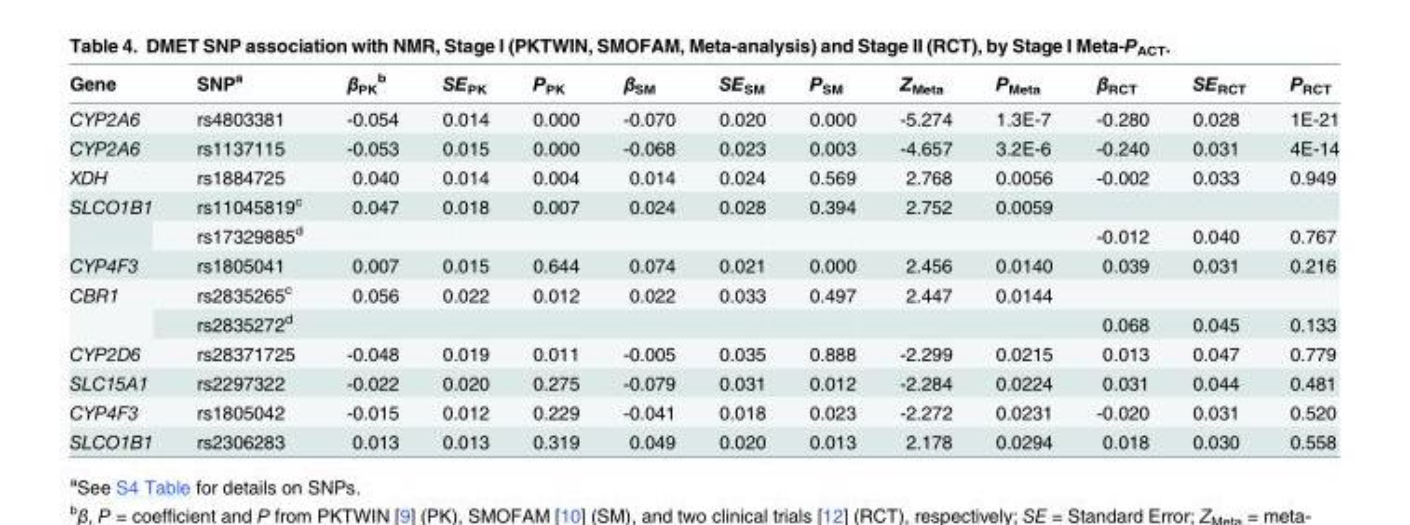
<table><thead><tr><td>Gene</td><td>SNP<sup>a</sup></td><td>β<sub>PK</sub> <sup>b</sup></td><td>SE<sub>PK</sub></td><td>P<sub>PK</sub></td><td>β<sub>SM</sub></td><td>SE<sub>SM</sub></td><td>P<sub>SM</sub></td><td>Z<sub>Meta</sub></td><td>P<sub>Meta</sub></td><td>β<sub>RCT</sub></td><td>SE<sub>RCT</sub></td><td>P<sub>RCT</sub></td></tr></thead><tbody><tr><td>CYP2A6</td><td>rs4803381</td><td>-0.054</td><td>0.014</td><td>0.000</td><td>-0.070</td><td>0.020</td><td>0.000</td><td>-5.274</td><td>1.3E-7</td><td>-0.280</td><td>0.028</td><td>1E-21</td></tr><tr><td>CYP2A6</td><td>rs1137115</td><td>-0.053</td><td>0.015</td><td>0.000</td><td>-0.068</td><td>0.023</td><td>0.003</td><td>-4.657</td><td>3.2E-6</td><td>-0.240</td><td>0.031</td><td>4E-14</td></tr><tr><td>XDH</td><td>rs1884725</td><td>0.040</td><td>0.014</td><td>0.004</td><td>0.014</td><td>0.024</td><td>0.569</td><td>2.768</td><td>0.0056</td><td>-0.002</td><td>0.033</td><td>0.949</td></tr><tr><td rowspan="2">SLCO1B1</td><td>rs11045819<sup>c</sup></td><td>0.047</td><td>0.018</td><td>0.007</td><td>0.024</td><td>0.028</td><td>0.394</td><td>2.752</td><td>0.0059</td><td></td><td></td><td></td></tr><tr><td>rs17329885<sup>d</sup></td><td></td><td></td><td></td><td></td><td></td><td></td><td></td><td></td><td>-0.012</td><td>0.040</td><td>0.767</td></tr><tr><td>CYP4F3</td><td>rs1805041</td><td>0.007</td><td>0.015</td><td>0.644</td><td>0.074</td><td>0.021</td><td>0.000</td><td>2.456</td><td>0.0140</td><td>0.039</td><td>0.031</td><td>0.216</td></tr><tr><td rowspan="2">CBR1</td><td>rs2835265<sup>c</sup></td><td>0.056</td><td>0.022</td><td>0.012</td><td>0.022</td><td>0.033</td><td>0.497</td><td>2.447</td><td>0.0144</td><td></td><td></td><td></td></tr><tr><td>rs2835272<sup>d</sup></td><td></td><td></td><td></td><td></td><td></td><td></td><td></td><td></td><td>0.068</td><td>0.045</td><td>0.133</td></tr><tr><td>CYP2D6</td><td>rs28371725</td><td>-0.048</td><td>0.019</td><td>0.011</td><td>-0.005</td><td>0.035</td><td>0.888</td><td>-2.299</td><td>0.0215</td><td>0.013</td><td>0.047</td><td>0.779</td></tr><tr><td>SLC15A1</td><td>rs2297322</td><td>-0.022</td><td>0.020</td><td>0.275</td><td>-0.079</td><td>0.031</td><td>0.012</td><td>-2.284</td><td>0.0224</td><td>0.031</td><td>0.044</td><td>0.481</td></tr><tr><td>CYP4F3</td><td>rs1805042</td><td>-0.015</td><td>0.012</td><td>0.229</td><td>-0.041</td><td>0.018</td><td>0.023</td><td>-2.272</td><td>0.0231</td><td>-0.020</td><td>0.031</td><td>0.520</td></tr><tr><td>SLCO1B1</td><td>rs2306283</td><td>0.013</td><td>0.013</td><td>0.319</td><td>0.049</td><td>0.020</td><td>0.013</td><td>2.178</td><td>0.0294</td><td>0.018</td><td>0.030</td><td>0.558</td></tr></tbody></table>